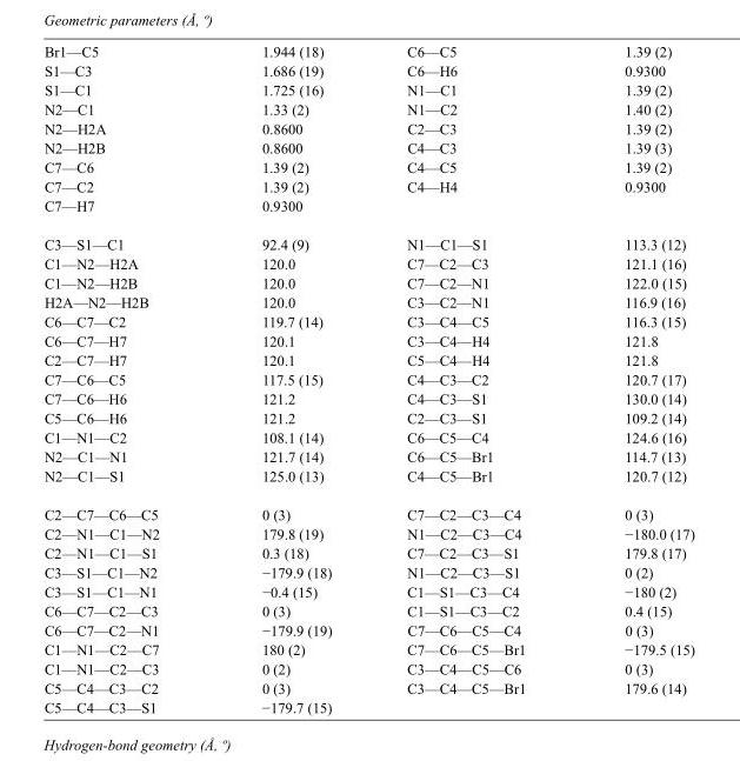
<table><tbody><tr><td>Br1—C5</td><td>1.944 (18)</td><td>C6—C5</td><td>1.39 (2)</td></tr><tr><td>S1—C3</td><td>1.686 (19)</td><td>C6—H6</td><td>0.9300</td></tr><tr><td>S1—C1</td><td>1.725 (16)</td><td>N1—C1</td><td>1.39 (2)</td></tr><tr><td>N2—C1</td><td>1.33 (2)</td><td>N1—C2</td><td>1.40 (2)</td></tr><tr><td>N2—H2A</td><td>0.8600</td><td>C2—C3</td><td>1.39 (2)</td></tr><tr><td>N2—H2B</td><td>0.8600</td><td>C4—C3</td><td>1.39 (3)</td></tr><tr><td>C7—C6</td><td>1.39 (2)</td><td>C4—C5</td><td>1.39 (2)</td></tr><tr><td>C7—C2</td><td>1.39 (2)</td><td>C4—H4</td><td>0.9300</td></tr><tr><td>C7—H7</td><td>0.9300</td><td></td><td></td></tr><tr><td>C3—S1—C1</td><td>92.4 (9)</td><td>N1—C1—S1</td><td>113.3 (12)</td></tr><tr><td>C1—N2—H2A</td><td>120.0</td><td>C7—C2—C3</td><td>121.1 (16)</td></tr><tr><td>C1—N2—H2B</td><td>120.0</td><td>C7—C2—N1</td><td>122.0 (15)</td></tr><tr><td>H2A—N2—H2B</td><td>120.0</td><td>C3—C2—N1</td><td>116.9 (16)</td></tr><tr><td>C6—C7—C2</td><td>119.7 (14)</td><td>C3—C4—C5</td><td>116.3 (15)</td></tr><tr><td>C6—C7—H7</td><td>120.1</td><td>C3—C4—H4</td><td>121.8</td></tr><tr><td>C2—C7—H7</td><td>120.1</td><td>C5—C4—H4</td><td>121.8</td></tr><tr><td>C7—C6—C5</td><td>117.5 (15)</td><td>C4—C3—C2</td><td>120.7 (17)</td></tr><tr><td>C7—C6—H6</td><td>121.2</td><td>C4—C3—S1</td><td>130.0 (14)</td></tr><tr><td>C5—C6—H6</td><td>121.2</td><td>C2—C3—S1</td><td>109.2 (14)</td></tr><tr><td>C1—N1—C2</td><td>108.1 (14)</td><td>C6—C5—C4</td><td>124.6 (16)</td></tr><tr><td>N2—C1—N1</td><td>121.7 (14)</td><td>C6—C5—Br1</td><td>114.7 (13)</td></tr><tr><td>N2—C1—S1</td><td>125.0 (13)</td><td>C4—C5—Br1</td><td>120.7 (12)</td></tr><tr><td>C2—C7—C6—C5</td><td>0 (3)</td><td>C7—C2—C3—C4</td><td>0 (3)</td></tr><tr><td>C2—N1—C1—N2</td><td>179.8 (19)</td><td>N1—C2—C3—C4</td><td>−180.0 (17)</td></tr><tr><td>C2—N1—C1—S1</td><td>0.3 (18)</td><td>C7—C2—C3—S1</td><td>179.8 (17)</td></tr><tr><td>C3—S1—C1—N2</td><td>−179.9 (18)</td><td>N1—C2—C3—S1</td><td>0 (2)</td></tr><tr><td>C3—S1—C1—N1</td><td>−0.4 (15)</td><td>C1—S1—C3—C4</td><td>−180 (2)</td></tr><tr><td>C6—C7—C2—C3</td><td>0 (3)</td><td>C1—S1—C3—C2</td><td>0.4 (15)</td></tr><tr><td>C6—C7—C2—N1</td><td>−179.9 (19)</td><td>C7—C6—C5—C4</td><td>0 (3)</td></tr><tr><td>C1—N1—C2—C7</td><td>180 (2)</td><td>C7—C6—C5—Br1</td><td>−179.5 (15)</td></tr><tr><td>C1—N1—C2—C3</td><td>0 (2)</td><td>C3—C4—C5—C6</td><td>0 (3)</td></tr><tr><td>C5—C4—C3—C2</td><td>0 (3)</td><td>C3—C4—C5—Br1</td><td>179.6 (14)</td></tr><tr><td>C5—C4—C3—S1</td><td>−179.7 (15)</td><td></td><td></td></tr></tbody></table>